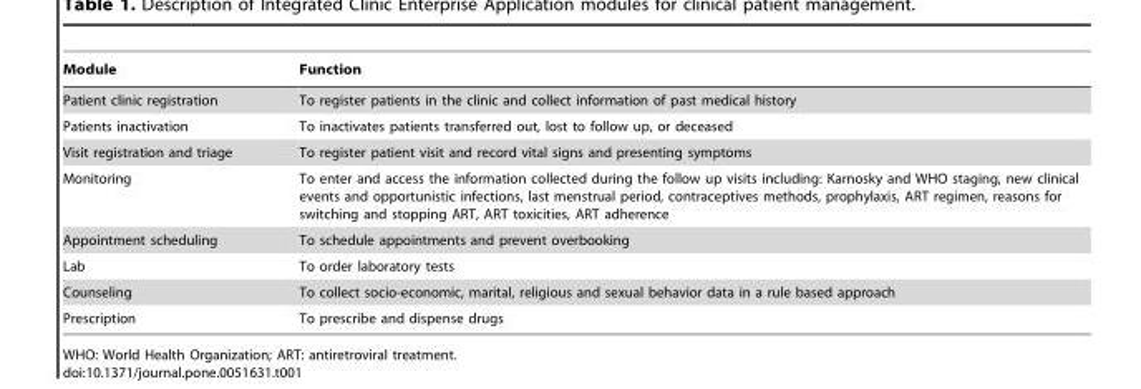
<table><thead><tr><td>Module</td><td>Function</td></tr></thead><tbody><tr><td>Patient clinic registration</td><td>To register patients in the clinic and collect information of past medical history</td></tr><tr><td>Patients inactivation</td><td>To inactivates patients transferred out, lost to follow up, or deceased</td></tr><tr><td>Visit registration and triage</td><td>To register patient visit and record vital signs and presenting symptoms</td></tr><tr><td>Monitoring</td><td>To enter and access the information collected during the follow up visits including: Karnosky and WHO staging, new clinical events and opportunistic infections, last menstrual period, contraceptives methods, prophylaxis, ART regimen, reasons for switching and stopping ART, ART toxicities, ART adherence</td></tr><tr><td>Appointment scheduling</td><td>To schedule appointments and prevent overbooking</td></tr><tr><td>Lab</td><td>To order laboratory tests</td></tr><tr><td>Counseling</td><td>To collect socio-economic, marital, religious and sexual behavior data in a rule based approach</td></tr><tr><td>Prescription</td><td>To prescribe and dispense drugs</td></tr></tbody></table>